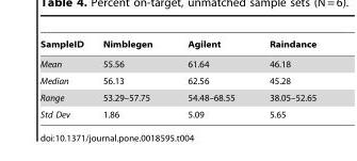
<table><thead><tr><td>SampleID</td><td>Nimblegen</td><td>Agilent</td><td>Raindance</td></tr></thead><tbody><tr><td>Mean</td><td>55.56</td><td>61.64</td><td>46.18</td></tr><tr><td>Median</td><td>56.13</td><td>62.56</td><td>45.28</td></tr><tr><td>Range</td><td>53.29–57.75</td><td>54.48–68.55</td><td>38.05–52.65</td></tr><tr><td>Std Dev</td><td>1.86</td><td>5.09</td><td>5.65</td></tr></tbody></table>